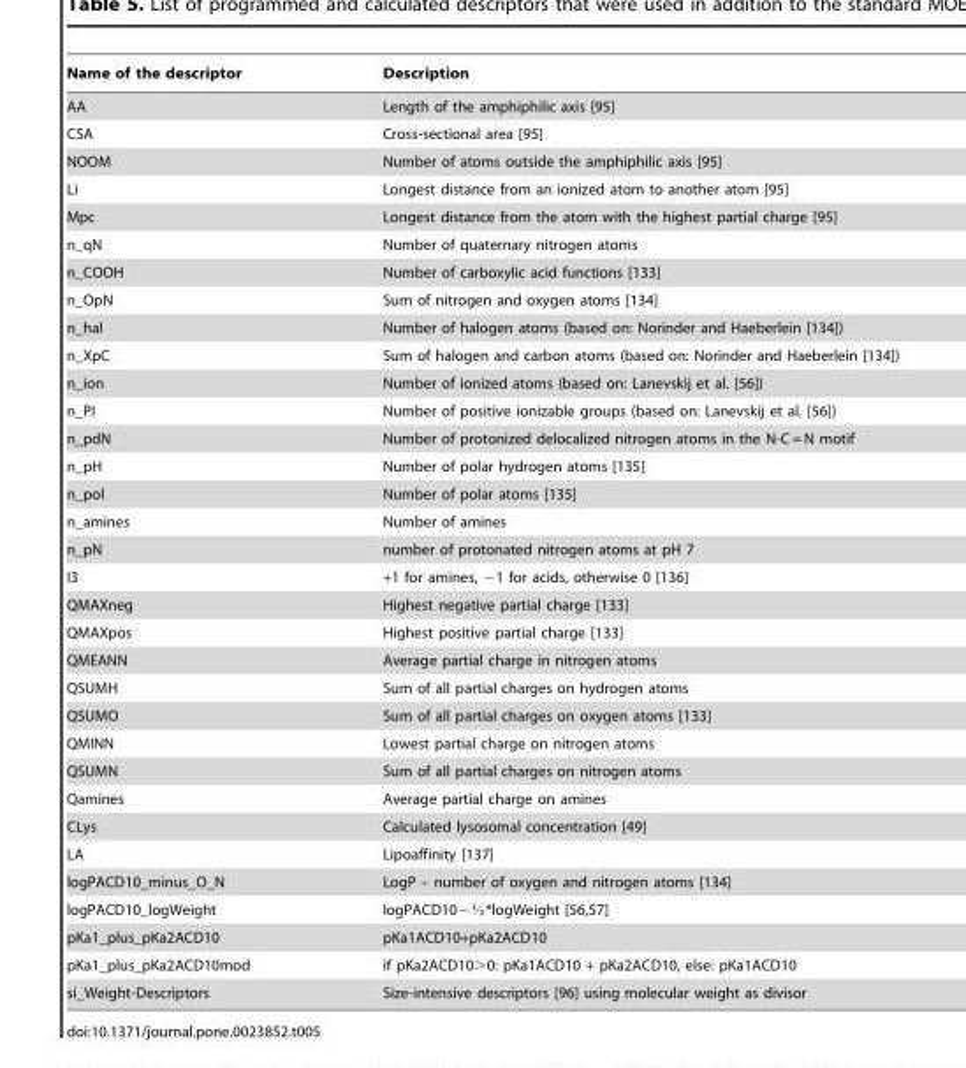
<table><thead><tr><td>Name of the descriptor</td><td>Description</td></tr></thead><tbody><tr><td>AA</td><td>Length of the amphiphilic axis [95]</td></tr><tr><td>CSA</td><td>Cross-sectional area [95]</td></tr><tr><td>NOOM</td><td>Number of atoms outside the amphiphilic axis [95]</td></tr><tr><td>Li</td><td>Longest distance from an ionized atom to another atom [95]</td></tr><tr><td>Mpc</td><td>Longest distance from the atom with the highest partial charge [95]</td></tr><tr><td>n_qN</td><td>Number of quaternary nitrogen atoms</td></tr><tr><td>n_COOH</td><td>Number of carboxylic acid functions [133]</td></tr><tr><td>n_OpN</td><td>Sum of nitrogen and oxygen atoms [134]</td></tr><tr><td>n_hal</td><td>Number of halogen atoms (based on: Norinder and Haeberlein [134])</td></tr><tr><td>n_XpC</td><td>Sum of halogen and carbon atoms (based on: Norinder and Haeberlein [134])</td></tr><tr><td>n_ion</td><td>Number of ionized atoms (based on: Lanevskij et al. [56])</td></tr><tr><td>n_PI</td><td>Number of positive ionizable groups (based on: Lanevskij et al. [56])</td></tr><tr><td>n_pdN</td><td>Number of protonized delocalized nitrogen atoms in the N-C = N motif</td></tr><tr><td>n_pH</td><td>Number of polar hydrogen atoms [135]</td></tr><tr><td>n_pol</td><td>Number of polar atoms [135]</td></tr><tr><td>n_amines</td><td>Number of amines</td></tr><tr><td>n_pN</td><td>number of protonated nitrogen atoms at pH 7</td></tr><tr><td>I3</td><td>+1 for amines, −1 for acids, otherwise 0 [136]</td></tr><tr><td>QMAXneg</td><td>Highest negative partial charge [133]</td></tr><tr><td>QMAXpos</td><td>Highest positive partial charge [133]</td></tr><tr><td>QMEANN</td><td>Average partial charge in nitrogen atoms</td></tr><tr><td>QSUMH</td><td>Sum of all partial charges on hydrogen atoms</td></tr><tr><td>QSUMO</td><td>Sum of all partial charges on oxygen atoms [133]</td></tr><tr><td>QMINN</td><td>Lowest partial charge on nitrogen atoms</td></tr><tr><td>QSUMN</td><td>Sum of all partial charges on nitrogen atoms</td></tr><tr><td>Qamines</td><td>Average partial charge on amines</td></tr><tr><td>CLys</td><td>Calculated lysosomal concentration [49]</td></tr><tr><td>LA</td><td>Lipoaffinity [137]</td></tr><tr><td>logPACD10_minus_O_N</td><td>LogP – number of oxygen and nitrogen atoms [134]</td></tr><tr><td>logPACD10_logWeight</td><td>logPACD102K*logWeight [56,57]</td></tr><tr><td>pKa1_plus_pKa2ACD10</td><td>pKa1ACD10+pKa2ACD10</td></tr><tr><td>pKa1_plus_pKa2ACD10mod</td><td>if pKa2ACD10&gt;0: pKa1ACD10 + pKa2ACD10, else: pKa1ACD10</td></tr><tr><td>si_Weight-Descriptors</td><td>Size-intensive descriptors [96] using molecular weight as divisor</td></tr></tbody></table>